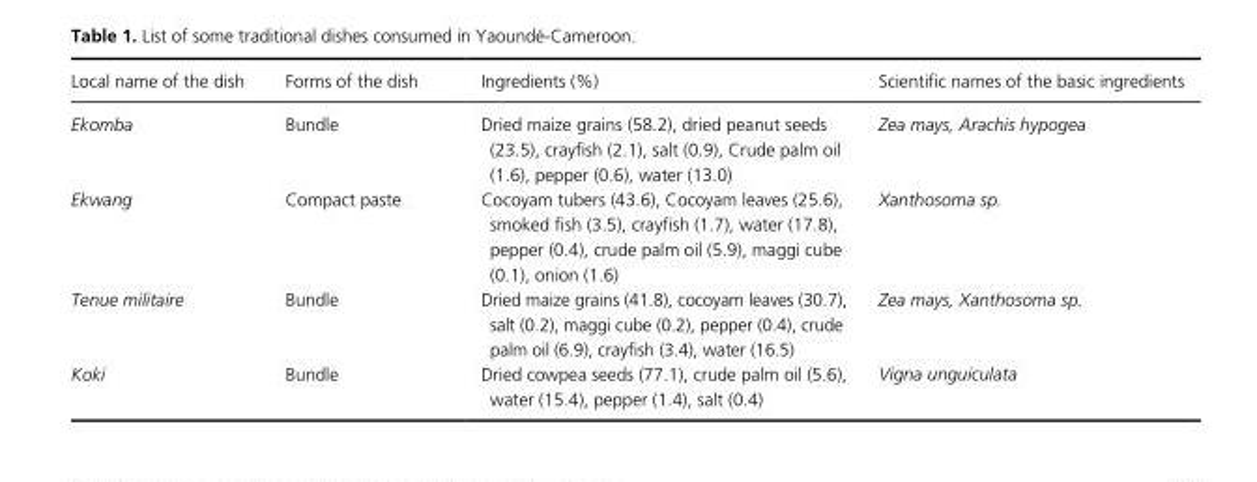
<table><thead><tr><td>Local name of the dish</td><td>Forms of the dish</td><td>Ingredients (%)</td><td>Scientific names of the basic ingredients</td></tr></thead><tbody><tr><td>Ekomba</td><td>Bundle</td><td>Dried maize grains (58.2), dried peanut seeds (23.5), crayfish (2.1), salt (0.9), Crude palm oil (1.6), pepper (0.6), water (13.0)</td><td>Zea mays, Arachis hypogea</td></tr><tr><td>Ekwang</td><td>Compact paste</td><td>Cocoyam tubers (43.6), Cocoyam leaves (25.6), smoked fish (3.5), crayfish (1.7), water (17.8), pepper (0.4), crude palm oil (5.9), maggi cube (0.1), onion (1.6)</td><td>Xanthosoma sp.</td></tr><tr><td>Tenue militaire</td><td>Bundle</td><td>Dried maize grains (41.8), cocoyam leaves (30.7), salt (0.2), maggi cube (0.2), pepper (0.4), crude palm oil (6.9), crayfish (3.4), water (16.5)</td><td>Zea mays, Xanthosoma sp.</td></tr><tr><td>Koki</td><td>Bundle</td><td>Dried cowpea seeds (77.1), crude palm oil (5.6), water (15.4), pepper (1.4), salt (0.4)</td><td>Vigna unguiculata</td></tr></tbody></table>